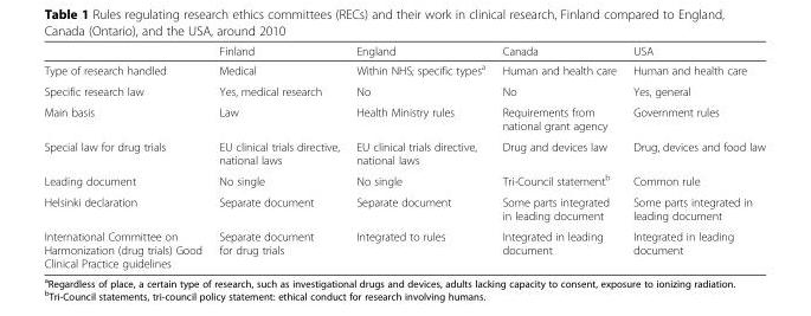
<table><thead><tr><td></td><td>Finland</td><td>England</td><td>Canada</td><td>USA</td></tr></thead><tbody><tr><td>Type of research handled</td><td>Medical</td><td>Within NHS; specific types<sup>a</sup></td><td>Human and health care</td><td>Human and health care</td></tr><tr><td>Specific research law</td><td>Yes, medical research</td><td>No</td><td>No</td><td>Yes, general</td></tr><tr><td>Main basis</td><td>Law</td><td>Health Ministry rules</td><td>Requirements from national grant agency</td><td>Government rules</td></tr><tr><td>Special law for drug trials</td><td>EU clinical trials directive, national laws</td><td>EU clinical trials directive, national laws</td><td>Drug and devices law</td><td>Drug, devices and food law</td></tr><tr><td>Leading document</td><td>No single</td><td>No single</td><td>Tri-Council statement<sup>b</sup></td><td>Common rule</td></tr><tr><td>Helsinki declaration</td><td>Separate document</td><td>Separate document</td><td>Some parts integrated in leading document</td><td>Some parts integrated in leading document</td></tr><tr><td>International Committee on Harmonization (drug trials) Good Clinical Practice guidelines</td><td>Separate document for drug trials</td><td>Integrated to rules</td><td>Integrated in leading document</td><td>Integrated in leading document</td></tr></tbody></table>